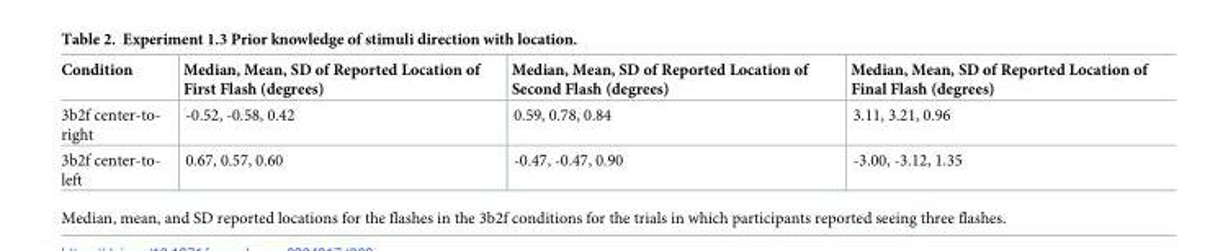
<table><thead><tr><td>Condition</td><td>Median, Mean, SD of Reported Location of First Flash (degrees)</td><td>Median, Mean, SD of Reported Location of Second Flash (degrees)</td><td>Median, Mean, SD of Reported Location of Final Flash (degrees)</td></tr></thead><tbody><tr><td>3b2f center-to- right</td><td>-0.52, -0.58, 0.42</td><td>0.59, 0.78, 0.84</td><td>3.11, 3.21, 0.96</td></tr><tr><td>3b2f center-to- left</td><td>0.67, 0.57, 0.60</td><td>-0.47, -0.47, 0.90</td><td>-3.00, -3.12, 1.35</td></tr></tbody></table>